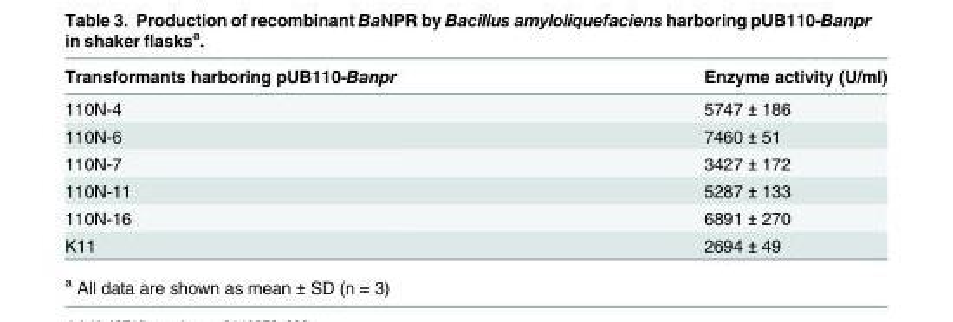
<table><thead><tr><td>Transformants harboring pUB110-Banpr</td><td>Enzyme activity (U/ml)</td></tr></thead><tbody><tr><td>110N-4</td><td>5747 ± 186</td></tr><tr><td>110N-6</td><td>7460 ± 51</td></tr><tr><td>110N-7</td><td>3427 ± 172</td></tr><tr><td>110N-11</td><td>5287 ± 133</td></tr><tr><td>110N-16</td><td>6891 ± 270</td></tr><tr><td>K11</td><td>2694 ± 49</td></tr></tbody></table>